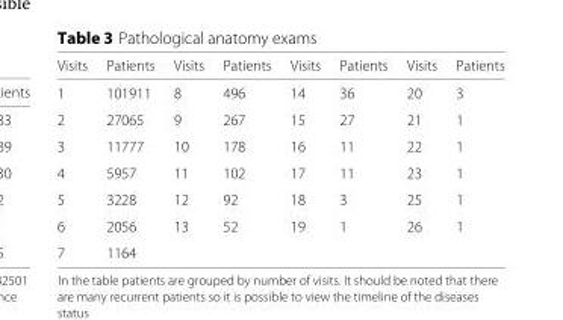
<table><thead><tr><td>Visits</td><td>Patients</td><td>Visits</td><td>Patients</td><td>Visits</td><td>Patients</td><td>Visits</td><td>Patients</td></tr></thead><tbody><tr><td>1</td><td>101911</td><td>8</td><td>496</td><td>14</td><td>36</td><td>20</td><td>3</td></tr><tr><td>2</td><td>27065</td><td>9</td><td>267</td><td>15</td><td>27</td><td>21</td><td>1</td></tr><tr><td>3</td><td>11777</td><td>10</td><td>178</td><td>16</td><td>11</td><td>22</td><td>1</td></tr><tr><td>4</td><td>5957</td><td>11</td><td>102</td><td>17</td><td>11</td><td>23</td><td>1</td></tr><tr><td>5</td><td>3228</td><td>12</td><td>92</td><td>18</td><td>3</td><td>25</td><td>1</td></tr><tr><td>6</td><td>2056</td><td>13</td><td>52</td><td>19</td><td>1</td><td>26</td><td>1</td></tr><tr><td>7</td><td>1164</td><td></td><td></td><td></td><td></td><td></td><td></td></tr></tbody></table>